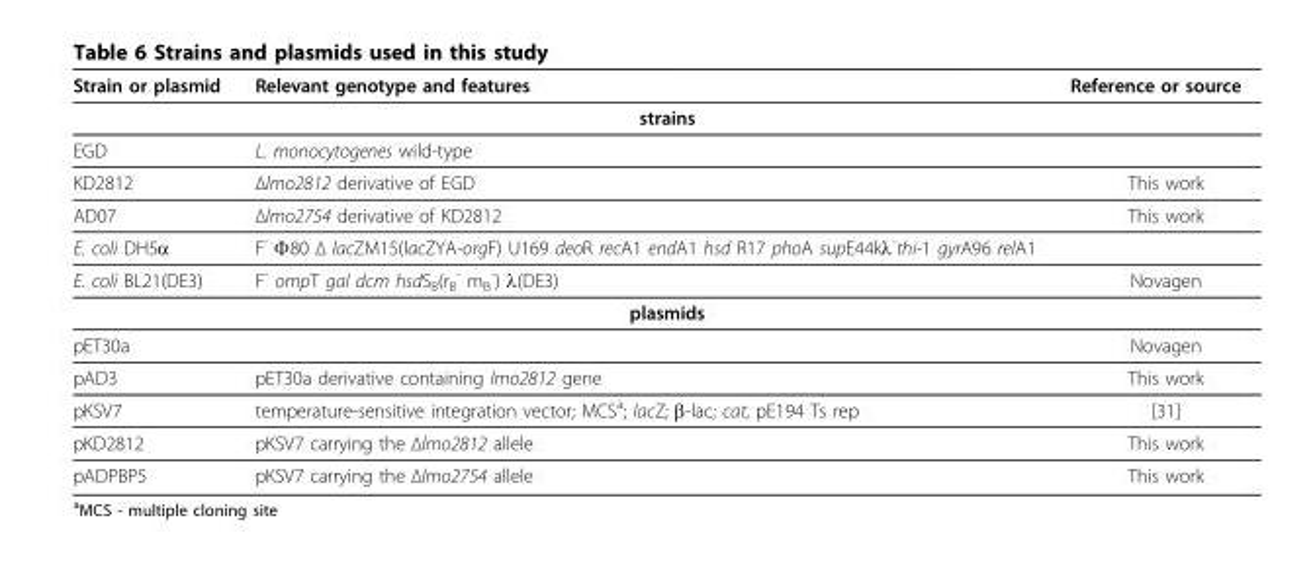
<table><thead><tr><td>Strain or plasmid</td><td>Relevant genotype and features</td><td>Reference or source</td></tr></thead><tbody><tr><td colspan="3">strains</td></tr><tr><td>EGD</td><td>L. monocytogenes wild-type</td><td></td></tr><tr><td>KD2812</td><td>Δlmo2812 derivative of EGD</td><td>This work</td></tr><tr><td>AD07</td><td>Δlmo2754 derivative of KD2812</td><td>This work</td></tr><tr><td>E. coli DH5α</td><td>F<sup>-</sup> Φ80 Δ lacZM15(lacZYA-orgF) U169 deoR recA1 endA1 hsd R17 phoA supE44kλ<sup>-</sup>thi-1 gyrA96 relA1</td><td></td></tr><tr><td>E. coli BL21(DE3)</td><td>F<sup>-</sup> ompT gal dcm hsdS<sub>B</sub>(r<sub>B</sub> <sup>-</sup> m<sub>B</sub> <sup>-</sup>) λ(DE3)</td><td>Novagen</td></tr><tr><td colspan="3">plasmids</td></tr><tr><td>pET30a</td><td></td><td>Novagen</td></tr><tr><td>pAD3</td><td>pET30a derivative containing lmo2812 gene</td><td>This work</td></tr><tr><td>pKSV7</td><td>temperature-sensitive integration vector; MCS<sup>a</sup>; lacZ; β-lac; cat, pE194 Ts rep</td><td>[31]</td></tr><tr><td>pKD2812</td><td>pKSV7 carrying the Δlmo2812 allele</td><td>This work</td></tr><tr><td>pADPBP5</td><td>pKSV7 carrying the Δlmo2754 allele</td><td>This work</td></tr></tbody></table>